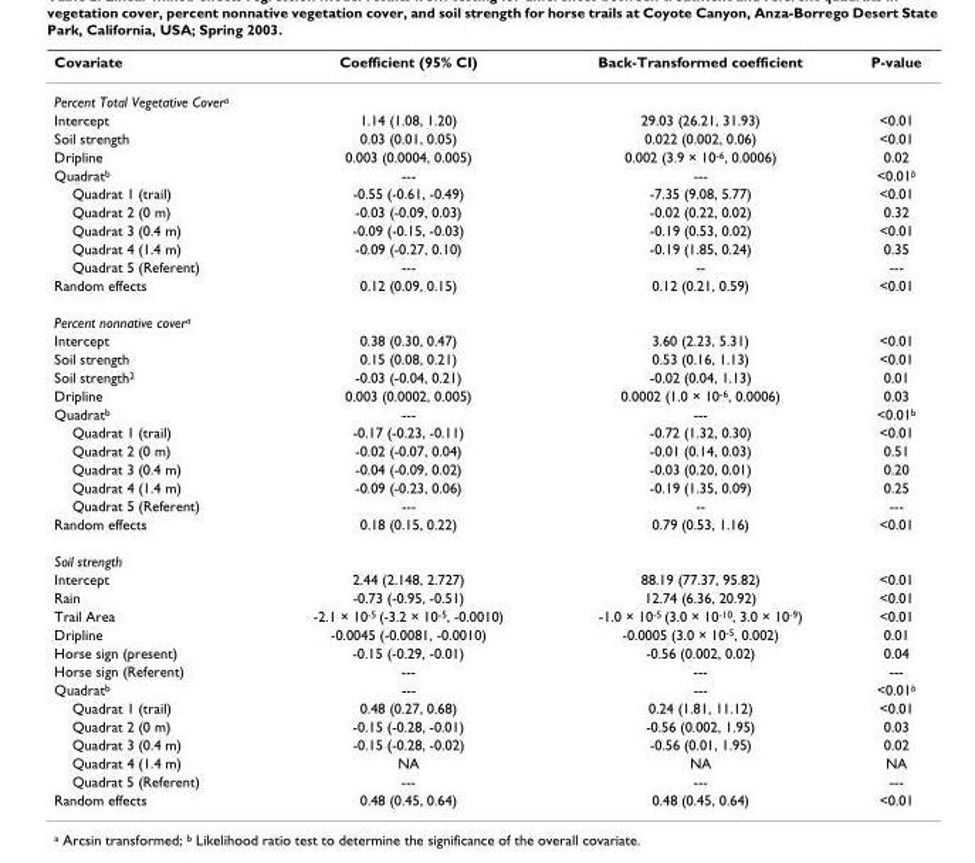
<table><thead><tr><td>Covariate</td><td>Coefficient (95% CI)</td><td>Back-Transformed coefficient</td><td>P-value</td></tr></thead><tbody><tr><td colspan="4">Percent Total Vegetative Cover<sup>a</sup></td></tr><tr><td>Intercept</td><td>1.14 (1.08, 1.20)</td><td>29.03 (26.21, 31.93)</td><td>&lt;0.01</td></tr><tr><td>Soil strength</td><td>0.03 (0.01, 0.05)</td><td>0.022 (0.002, 0.06)</td><td>&lt;0.01</td></tr><tr><td>Dripline</td><td>0.003 (0.0004, 0.005)</td><td>0.002 (3.9 × 10<sup>-6</sup>, 0.0006)</td><td>0.02</td></tr><tr><td>Quadrat<sup>b</sup></td><td>---</td><td>---</td><td>&lt;0.01<sup>b</sup></td></tr><tr><td>Quadrat 1 (trail)</td><td>-0.55 (-0.61, -0.49)</td><td>-7.35 (9.08, 5.77)</td><td>&lt;0.01</td></tr><tr><td>Quadrat 2 (0 m)</td><td>-0.03 (-0.09, 0.03)</td><td>-0.02 (0.22, 0.02)</td><td>0.32</td></tr><tr><td>Quadrat 3 (0.4 m)</td><td>-0.09 (-0.15, -0.03)</td><td>-0.19 (0.53, 0.02)</td><td>&lt;0.01</td></tr><tr><td>Quadrat 4 (1.4 m)</td><td>-0.09 (-0.27, 0.10)</td><td>-0.19 (1.85, 0.24)</td><td>0.35</td></tr><tr><td>Quadrat 5 (Referent)</td><td>---</td><td>--</td><td>---</td></tr><tr><td>Random effects</td><td>0.12 (0.09, 0.15)</td><td>0.12 (0.21, 0.59)</td><td>&lt;0.01</td></tr><tr><td colspan="4">Percent nonnative cover<sup>a</sup></td></tr><tr><td>Intercept</td><td>0.38 (0.30, 0.47)</td><td>3.60 (2.23, 5.31)</td><td>&lt;0.01</td></tr><tr><td>Soil strength</td><td>0.15 (0.08, 0.21)</td><td>0.53 (0.16, 1.13)</td><td>&lt;0.01</td></tr><tr><td>Soil strength<sup>2</sup></td><td>-0.03 (-0.04, 0.21)</td><td>-0.02 (0.04, 1.13)</td><td>0.01</td></tr><tr><td>Dripline</td><td>0.003 (0.0002, 0.005)</td><td>0.0002 (1.0 × 10<sup>-6</sup>, 0.0006)</td><td>0.03</td></tr><tr><td>Quadrat<sup>b</sup></td><td>---</td><td>---</td><td>&lt;0.01<sup>b</sup></td></tr><tr><td>Quadrat 1 (trail)</td><td>-0.17 (-0.23, -0.11)</td><td>-0.72 (1.32, 0.30)</td><td>&lt;0.01</td></tr><tr><td>Quadrat 2 (0 m)</td><td>-0.02 (-0.07, 0.04)</td><td>-0.01 (0.14, 0.03)</td><td>0.51</td></tr><tr><td>Quadrat 3 (0.4 m)</td><td>-0.04 (-0.09, 0.02)</td><td>-0.03 (0.20, 0.01)</td><td>0.20</td></tr><tr><td>Quadrat 4 (1.4 m)</td><td>-0.09 (-0.23, 0.06)</td><td>-0.19 (1.35, 0.09)</td><td>0.25</td></tr><tr><td>Quadrat 5 (Referent)</td><td>---</td><td>--</td><td>---</td></tr><tr><td>Random effects</td><td>0.18 (0.15, 0.22)</td><td>0.79 (0.53, 1.16)</td><td>&lt;0.01</td></tr><tr><td colspan="4">Soil strength</td></tr><tr><td>Intercept</td><td>2.44 (2.148, 2.727)</td><td>88.19 (77.37, 95.82)</td><td>&lt;0.01</td></tr><tr><td>Rain</td><td>-0.73 (-0.95, -0.51)</td><td>12.74 (6.36, 20.92)</td><td>&lt;0.01</td></tr><tr><td>Trail Area</td><td>-2.1 × 10<sup>-5</sup> (-3.2 × 10<sup>-5</sup>, -0.0010)</td><td>-1.0 × 10<sup>-5</sup> (3.0 × 10<sup>-10</sup>, 3.0 × 10<sup>-9</sup>)</td><td>&lt;0.01</td></tr><tr><td>Dripline</td><td>-0.0045 (-0.0081, -0.0010)</td><td>-0.0005 (3.0 × 10<sup>-5</sup>, 0.002)</td><td>0.01</td></tr><tr><td>Horse sign (present)</td><td>-0.15 (-0.29, -0.01)</td><td>-0.56 (0.002, 0.02)</td><td>0.04</td></tr><tr><td>Horse sign (Referent)</td><td>---</td><td>---</td><td>---</td></tr><tr><td>Quadrat<sup>b</sup></td><td>---</td><td>---</td><td>&lt;0.01<sup>b</sup></td></tr><tr><td>Quadrat 1 (trail)</td><td>0.48 (0.27, 0.68)</td><td>0.24 (1.81, 11.12)</td><td>&lt;0.01</td></tr><tr><td>Quadrat 2 (0 m)</td><td>-0.15 (-0.28, -0.01)</td><td>-0.56 (0.002, 1.95)</td><td>0.03</td></tr><tr><td>Quadrat 3 (0.4 m)</td><td>-0.15 (-0.28, -0.02)</td><td>-0.56 (0.01, 1.95)</td><td>0.02</td></tr><tr><td>Quadrat 4 (1.4 m)</td><td>NA</td><td>NA</td><td>NA</td></tr><tr><td>Quadrat 5 (Referent)</td><td>---</td><td>---</td><td>---</td></tr><tr><td>Random effects</td><td>0.48 (0.45, 0.64)</td><td>0.48 (0.45, 0.64)</td><td>&lt;0.01</td></tr></tbody></table>